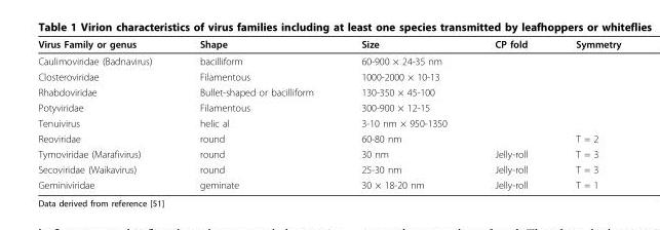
<table><thead><tr><td>Virus Family or genus</td><td>Shape</td><td>Size</td><td>CP fold</td><td>Symmetry</td></tr></thead><tbody><tr><td>Caulimoviridae (Badnavirus)</td><td>bacilliform</td><td>60-900 × 24-35 nm</td><td></td><td></td></tr><tr><td>Closteroviridae</td><td>Filamentous</td><td>1000-2000 × 10-13</td><td></td><td></td></tr><tr><td>Rhabdoviridae</td><td>Bullet-shaped or bacilliform</td><td>130-350 × 45-100</td><td></td><td></td></tr><tr><td>Potyviridae</td><td>Filamentous</td><td>300-900 × 12-15</td><td></td><td></td></tr><tr><td>Tenuivirus</td><td>helic al</td><td>3-10 nm × 950-1350</td><td></td><td></td></tr><tr><td>Reoviridae</td><td>round</td><td>60-80 nm</td><td></td><td>T = 2</td></tr><tr><td>Tymoviridae (Marafivirus)</td><td>round</td><td>30 nm</td><td>Jelly-roll</td><td>T = 3</td></tr><tr><td>Secoviridae (Waikavirus)</td><td>round</td><td>25-30 nm</td><td>Jelly-roll</td><td>T = 3</td></tr><tr><td>Geminiviridae</td><td>geminate</td><td>30 × 18-20 nm</td><td>Jelly-roll</td><td>T = 1</td></tr></tbody></table>